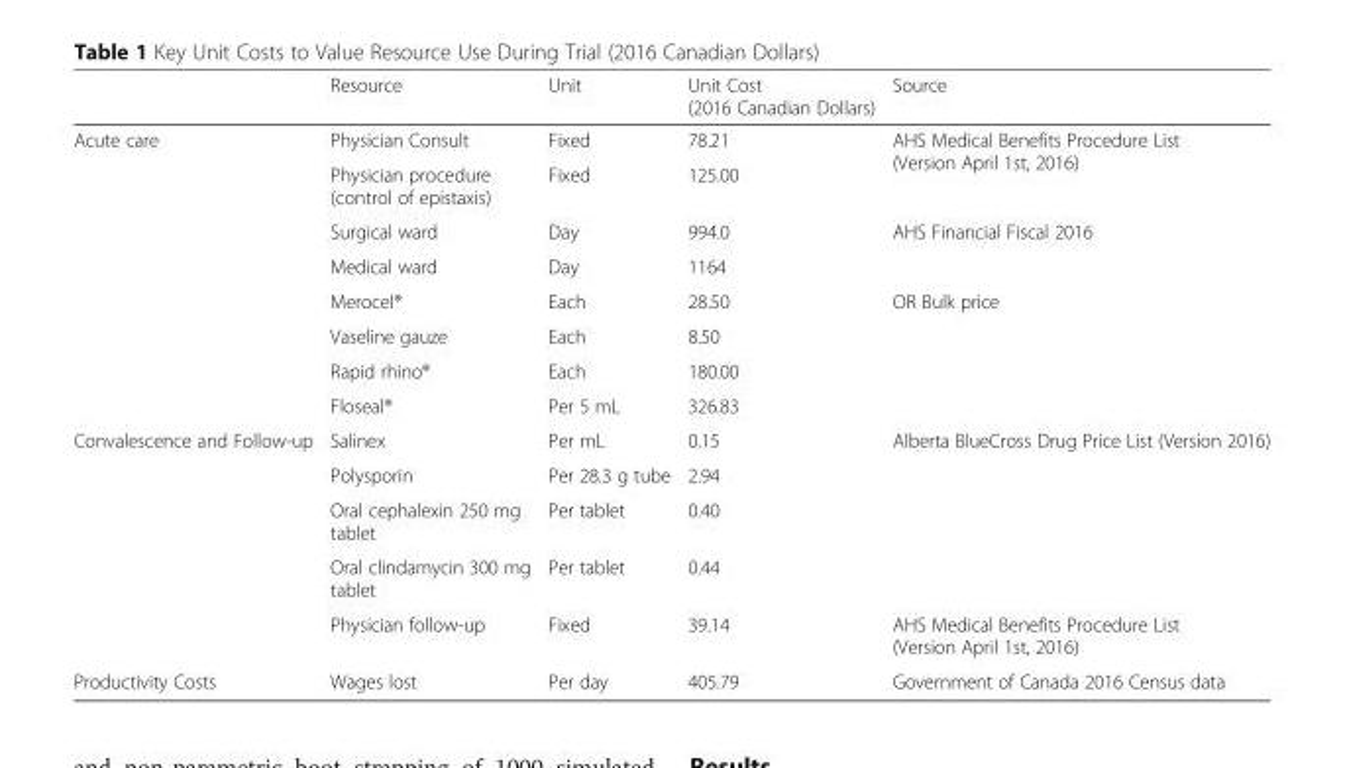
<table><thead><tr><td></td><td>Resource</td><td>Unit</td><td>Unit Cost (2016 Canadian Dollars)</td><td>Source</td></tr></thead><tbody><tr><td rowspan="8">Acute care</td><td>Physician Consult</td><td>Fixed</td><td>78.21</td><td rowspan="2">AHS Medical Benefits Procedure List (Version April 1st, 2016)</td></tr><tr><td>Physician procedure (control of epistaxis)</td><td>Fixed</td><td>125.00</td></tr><tr><td>Surgical ward</td><td>Day</td><td>994.0</td><td rowspan="2">AHS Financial Fiscal 2016</td></tr><tr><td>Medical ward</td><td>Day</td><td>1164</td></tr><tr><td>Merocel®</td><td>Each</td><td>28.50</td><td rowspan="4">OR Bulk price</td></tr><tr><td>Vaseline gauze</td><td>Each</td><td>8.50</td></tr><tr><td>Rapid rhino®</td><td>Each</td><td>180.00</td></tr><tr><td>Floseal®</td><td>Per 5 mL</td><td>326.83</td></tr><tr><td rowspan="5">Convalescence and Follow-up</td><td>Salinex</td><td>Per mL</td><td>0.15</td><td rowspan="4">Alberta BlueCross Drug Price List (Version 2016)</td></tr><tr><td>Polysporin</td><td>Per 28.3 g tube</td><td>2.94</td></tr><tr><td>Oral cephalexin 250 mg tablet</td><td>Per tablet</td><td>0.40</td></tr><tr><td>Oral clindamycin 300 mg tablet</td><td>Per tablet</td><td>0.44</td></tr><tr><td>Physician follow-up</td><td>Fixed</td><td>39.14</td><td>AHS Medical Benefits Procedure List (Version April 1st, 2016)</td></tr><tr><td>Productivity Costs</td><td>Wages lost</td><td>Per day</td><td>405.79</td><td>Government of Canada 2016 Census data</td></tr></tbody></table>